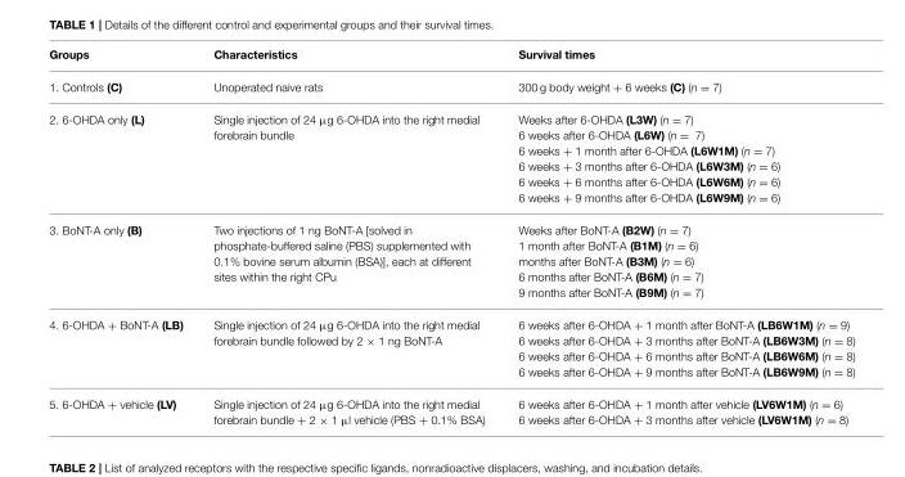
<table><thead><tr><td>Groups</td><td>Characteristics</td><td>Survival times</td></tr></thead><tbody><tr><td>1. Controls (C)</td><td>Unoperated naive rats</td><td>300 g body weight + 6 weeks (C) (n = 7)</td></tr><tr><td>2. 6-OHDA only (L)</td><td>Single injection of 24 µg 6-OHDA into the right medial forebrain bundle</td><td>Weeks after 6-OHDA (L3W) (n = 7) 6 weeks after 6-OHDA (L6W) (n = 7) 6 weeks + 1 month after 6-OHDA (L6W1M) (n = 7) 6 weeks + 3 months after 6-OHDA (L6W3M) (n = 6) 6 weeks + 6 months after 6-OHDA (L6W6M) (n = 6) 6 weeks + 9 months after 6-OHDA (L6W9M) (n = 6)</td></tr><tr><td>3. BoNT-A only (B)</td><td>Two injections of 1 ng BoNT-A [solved in phosphate-buffered saline (PBS) supplemented with 0.1% bovine serum albumin (BSA)], each at different sites within the right CPu</td><td>Weeks after BoNT-A (B2W) (n = 7) 1 month after BoNT-A (B1M) (n = 6) months after BoNT-A (B3M) (n = 6) 6 months after BoNT-A (B6M) (n = 7) 9 months after BoNT-A (B9M) (n = 7)</td></tr><tr><td>4. 6-OHDA + BoNT-A (LB)</td><td>Single injection of 24 µg 6-OHDA into the right medial forebrain bundle followed by 2 × 1 ng BoNT-A</td><td>6 weeks after 6-OHDA + 1 month after BoNT-A (LB6W1M) (n = 9) 6 weeks after 6-OHDA + 3 months after BoNT-A (LB6W3M) (n = 8) 6 weeks after 6-OHDA + 6 months after BoNT-A (LB6W6M) (n = 8) 6 weeks after 6-OHDA + 9 months after BoNT-A (LB6W9M) (n = 8)</td></tr><tr><td>5. 6-OHDA + vehicle (LV)</td><td>Single injection of 24 µg 6-OHDA into the right medial forebrain bundle + 2 × 1 µl vehicle (PBS + 0.1% BSA)</td><td>6 weeks after 6-OHDA + 1 month after vehicle (LV6W1M) (n = 6) 6 weeks after 6-OHDA + 3 months after vehicle (LV6W1M) (n = 8)</td></tr></tbody></table>